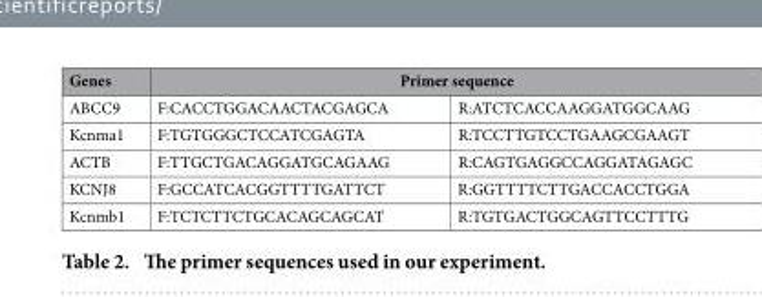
<table><tbody><tr><td>Genes</td><td colspan="2">Primer sequence</td></tr><tr><td>ABCC9</td><td>F:CACCTGGACAACTACGAGCA</td><td>R:ATCTCACCAAGGATGGCAAG</td></tr><tr><td>Kcnma1</td><td>F:TGTGGGCTCCATCGAGTA</td><td>R:TCCTTGTCCTGAAGCGAAGT</td></tr><tr><td>ACTB</td><td>F:TTGCTGACAGGATGCAGAAG</td><td>R:CAGTGAGGCCAGGATAGAGC</td></tr><tr><td>KCNJ8</td><td>F:GCCATCACGGTTTTGATTCT</td><td>R:GGTTTTCTTGACCACCTGGA</td></tr><tr><td>Kcnmb1</td><td>F:TCTCTTCTGCACAGCAGCAT</td><td>R:TGTGACTGGCAGTTCCTTTG</td></tr></tbody></table>